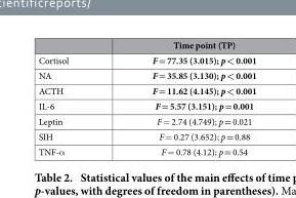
<table><thead><tr><td></td><td>Time point (TP)</td></tr></thead><tbody><tr><td>Cortisol</td><td>F = 77.35 (3.015); p &lt; 0.001</td></tr><tr><td>NA</td><td>F = 35.85 (3.130); p &lt; 0.001</td></tr><tr><td>ACTH</td><td>F = 11.62 (4.145); p &lt; 0.001</td></tr><tr><td>IL-6</td><td>F = 5.57 (3.151); p = 0.001</td></tr><tr><td>Leptin</td><td>F = 2.74 (4.749); p = 0.021</td></tr><tr><td>SIH</td><td>F = 0.27 (3.652); p = 0.88</td></tr><tr><td>TNF-α</td><td>F = 0.78 (4.12); p = 0.54</td></tr></tbody></table>